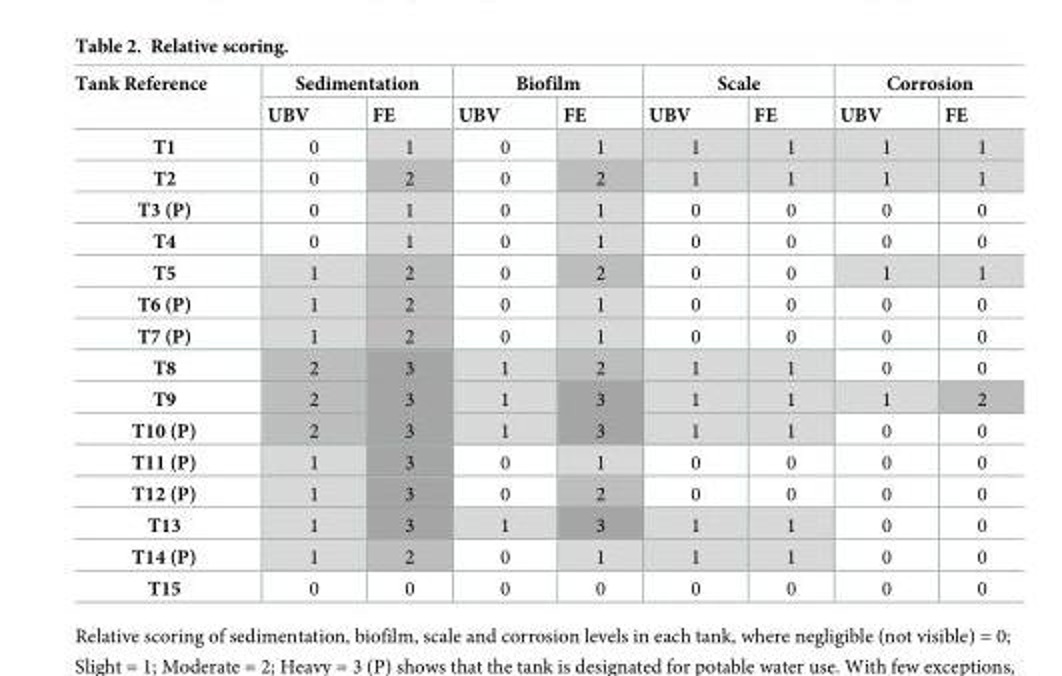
<table><thead><tr><td rowspan="2">Tank Reference</td><td colspan="2">Sedimentation</td><td colspan="2">Biofilm</td><td colspan="2">Scale</td><td colspan="2">Corrosion</td></tr><tr><td>UBV</td><td>FE</td><td>UBV</td><td>FE</td><td>UBV</td><td>FE</td><td>UBV</td><td>FE</td></tr></thead><tbody><tr><td>T1</td><td>0</td><td>1</td><td>0</td><td>1</td><td>1</td><td>1</td><td>1</td><td>1</td></tr><tr><td>T2</td><td>0</td><td>2</td><td>0</td><td>2</td><td>1</td><td>1</td><td>1</td><td>1</td></tr><tr><td>T3 (P)</td><td>0</td><td>1</td><td>0</td><td>1</td><td>0</td><td>0</td><td>0</td><td>0</td></tr><tr><td>T4</td><td>0</td><td>1</td><td>0</td><td>1</td><td>0</td><td>0</td><td>0</td><td>0</td></tr><tr><td>T5</td><td>1</td><td>2</td><td>0</td><td>2</td><td>0</td><td>0</td><td>1</td><td>1</td></tr><tr><td>T6 (P)</td><td>1</td><td>2</td><td>0</td><td>1</td><td>0</td><td>0</td><td>0</td><td>0</td></tr><tr><td>T7 (P)</td><td>1</td><td>2</td><td>0</td><td>1</td><td>0</td><td>0</td><td>0</td><td>0</td></tr><tr><td>T8</td><td>2</td><td>3</td><td>1</td><td>2</td><td>1</td><td>1</td><td>0</td><td>0</td></tr><tr><td>T9</td><td>2</td><td>3</td><td>1</td><td>3</td><td>1</td><td>1</td><td>1</td><td>2</td></tr><tr><td>T10 (P)</td><td>2</td><td>3</td><td>1</td><td>3</td><td>1</td><td>1</td><td>0</td><td>0</td></tr><tr><td>T11 (P)</td><td>1</td><td>3</td><td>0</td><td>1</td><td>0</td><td>0</td><td>0</td><td>0</td></tr><tr><td>T12 (P)</td><td>1</td><td>3</td><td>0</td><td>2</td><td>0</td><td>0</td><td>0</td><td>0</td></tr><tr><td>T13</td><td>1</td><td>3</td><td>1</td><td>3</td><td>1</td><td>1</td><td>0</td><td>0</td></tr><tr><td>T14 (P)</td><td>1</td><td>2</td><td>0</td><td>1</td><td>1</td><td>1</td><td>0</td><td>0</td></tr><tr><td>T15</td><td>0</td><td>0</td><td>0</td><td>0</td><td>0</td><td>0</td><td>0</td><td>0</td></tr></tbody></table>